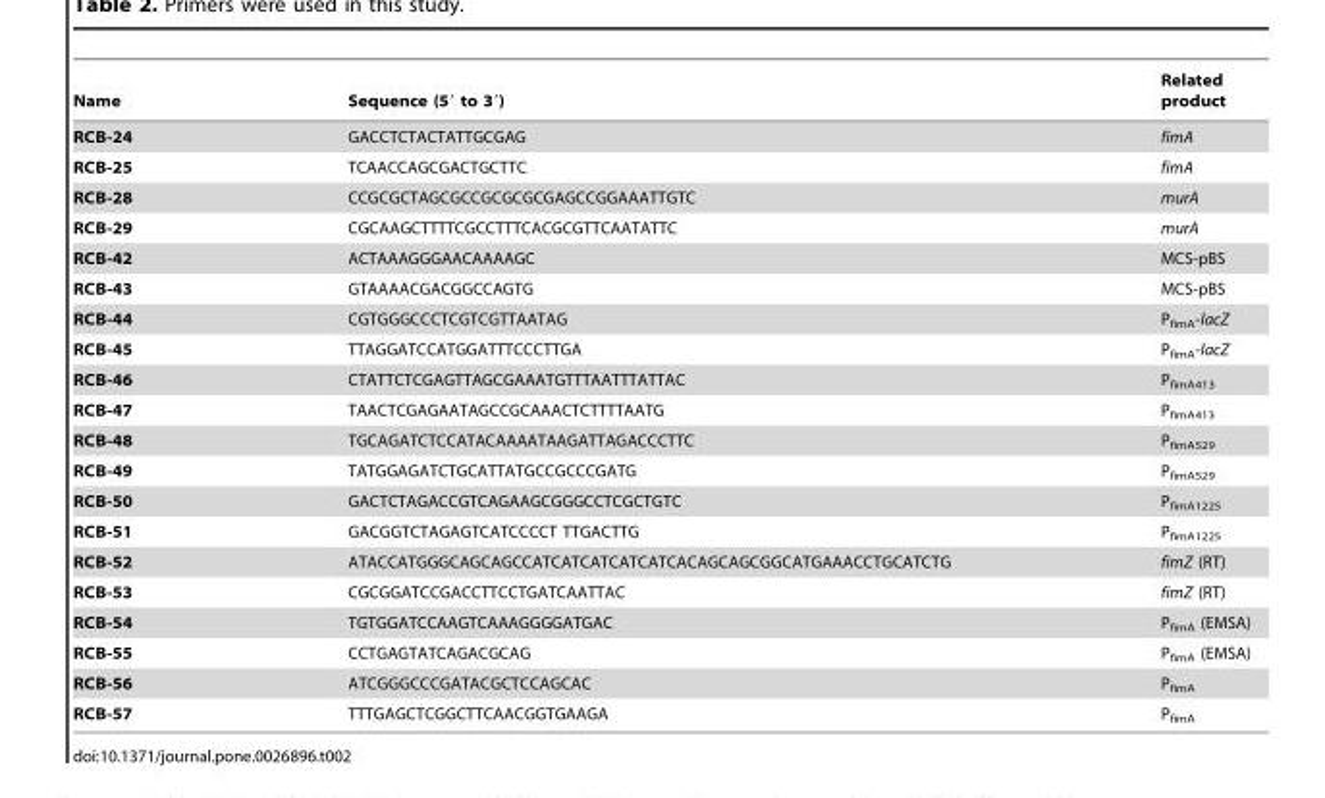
<table><thead><tr><td>Name</td><td>Sequence (5′ to 3′)</td><td>Related product</td></tr></thead><tbody><tr><td>RCB-24</td><td>GACCTCTACTATTGCGAG</td><td>fimA</td></tr><tr><td>RCB-25</td><td>TCAACCAGCGACTGCTTC</td><td>fimA</td></tr><tr><td>RCB-28</td><td>CCGCGCTAGCGCCGCGCGCGAGCCGGAAATTGTC</td><td>murA</td></tr><tr><td>RCB-29</td><td>CGCAAGCTTTTCGCCTTTCACGCGTTCAATATTC</td><td>murA</td></tr><tr><td>RCB-42</td><td>ACTAAAGGGAACAAAAGC</td><td>MCS-pBS</td></tr><tr><td>RCB-43</td><td>GTAAAACGACGGCCAGTG</td><td>MCS-pBS</td></tr><tr><td>RCB-44</td><td>CGTGGGCCCTCGTCGTTAATAG</td><td>P<sub>fimA</sub>-lacZ</td></tr><tr><td>RCB-45</td><td>TTAGGATCCATGGATTTCCCTTGA</td><td>P<sub>fimA</sub>-lacZ</td></tr><tr><td>RCB-46</td><td>CTATTCTCGAGTTAGCGAAATGTTTAATTTATTAC</td><td>P<sub>fimA413</sub></td></tr><tr><td>RCB-47</td><td>TAACTCGAGAATAGCCGCAAACTCTTTTAATG</td><td>P<sub>fimA413</sub></td></tr><tr><td>RCB-48</td><td>TGCAGATCTCCATACAAAATAAGATTAGACCCTTC</td><td>P<sub>fimA529</sub></td></tr><tr><td>RCB-49</td><td>TATGGAGATCTGCATTATGCCGCCCGATG</td><td>P<sub>fimA529</sub></td></tr><tr><td>RCB-50</td><td>GACTCTAGACCGTCAGAAGCGGGCCTCGCTGTC</td><td>P<sub>fimA1225</sub></td></tr><tr><td>RCB-51</td><td>GACGGTCTAGAGTCATCCCCT TTGACTTG</td><td>P<sub>fimA1225</sub></td></tr><tr><td>RCB-52</td><td>ATACCATGGGCAGCAGCCATCATCATCATCATCACAGCAGCGGCATGAAACCTGCATCTG</td><td>fimZ (RT)</td></tr><tr><td>RCB-53</td><td>CGCGGATCCGACCTTCCTGATCAATTAC</td><td>fimZ (RT)</td></tr><tr><td>RCB-54</td><td>TGTGGATCCAAGTCAAAGGGGATGAC</td><td>P<sub>fimA</sub> (EMSA)</td></tr><tr><td>RCB-55</td><td>CCTGAGTATCAGACGCAG</td><td>P<sub>fimA</sub> (EMSA)</td></tr><tr><td>RCB-56</td><td>ATCGGGCCCGATACGCTCCAGCAC</td><td>P<sub>fimA</sub></td></tr><tr><td>RCB-57</td><td>TTTGAGCTCGGCTTCAACGGTGAAGA</td><td>P<sub>fimA</sub></td></tr></tbody></table>